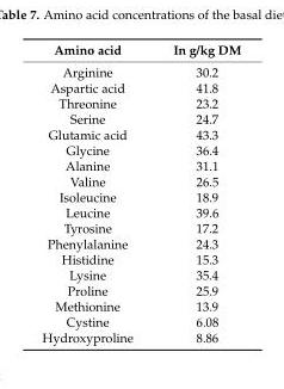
<table><thead><tr><td>Amino acid</td><td>In g/kg DM</td></tr></thead><tbody><tr><td>Arginine</td><td>30.2</td></tr><tr><td>Aspartic acid</td><td>41.8</td></tr><tr><td>Threonine</td><td>23.2</td></tr><tr><td>Serine</td><td>24.7</td></tr><tr><td>Glutamic acid</td><td>43.3</td></tr><tr><td>Glycine</td><td>36.4</td></tr><tr><td>Alanine</td><td>31.1</td></tr><tr><td>Valine</td><td>26.5</td></tr><tr><td>Isoleucine</td><td>18.9</td></tr><tr><td>Leucine</td><td>39.6</td></tr><tr><td>Tyrosine</td><td>17.2</td></tr><tr><td>Phenylalanine</td><td>24.3</td></tr><tr><td>Histidine</td><td>15.3</td></tr><tr><td>Lysine</td><td>35.4</td></tr><tr><td>Proline</td><td>25.9</td></tr><tr><td>Methionine</td><td>13.9</td></tr><tr><td>Cystine</td><td>6.08</td></tr><tr><td>Hydroxyproline</td><td>8.86</td></tr></tbody></table>